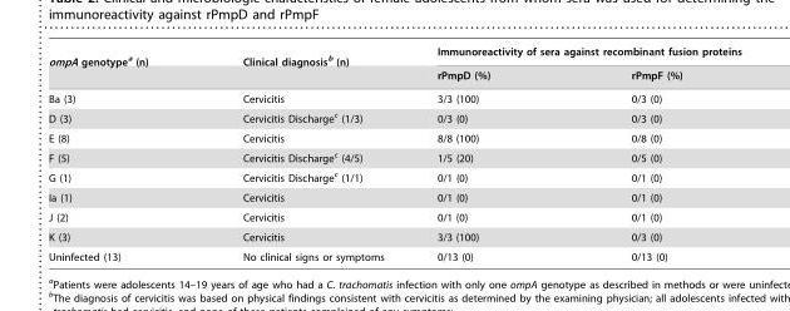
<table><thead><tr><td rowspan="2">ompA genotype<sup>a</sup> (n)</td><td rowspan="2">Clinical diagnosis<sup>b</sup> (n)</td><td colspan="2">Immunoreactivity of sera against recombinant fusion proteins</td></tr><tr><td>rPmpD (%)</td><td>rPmpF (%)</td></tr></thead><tbody><tr><td>Ba (3)</td><td>Cervicitis</td><td>3/3 (100)</td><td>0/3 (0)</td></tr><tr><td>D (3)</td><td>Cervicitis Discharge<sup>c</sup> (1/3)</td><td>0/3 (0)</td><td>0/3 (0)</td></tr><tr><td>E (8)</td><td>Cervicitis</td><td>8/8 (100)</td><td>0/8 (0)</td></tr><tr><td>F (5)</td><td>Cervicitis Discharge<sup>c</sup> (4/5)</td><td>1/5 (20)</td><td>0/5 (0)</td></tr><tr><td>G (1)</td><td>Cervicitis Discharge<sup>c</sup> (1/1)</td><td>0/1 (0)</td><td>0/1 (0)</td></tr><tr><td>Ia (1)</td><td>Cervicitis</td><td>0/1 (0)</td><td>0/1 (0)</td></tr><tr><td>J (2)</td><td>Cervicitis</td><td>0/1 (0)</td><td>0/1 (0)</td></tr><tr><td>K (3)</td><td>Cervicitis</td><td>3/3 (100)</td><td>0/3 (0)</td></tr><tr><td>Uninfected (13)</td><td>No clinical signs or symptoms</td><td>0/13 (0)</td><td>0/13 (0)</td></tr></tbody></table>